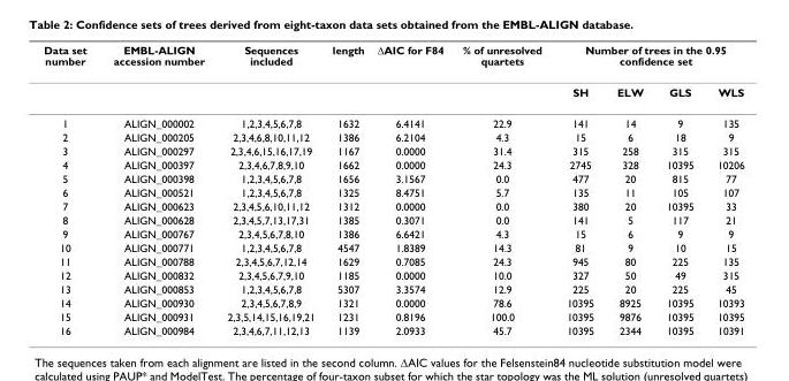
<table><thead><tr><td rowspan="2">Data set number</td><td rowspan="2">EMBL-ALIGN accession number</td><td rowspan="2">Sequences included</td><td rowspan="2">length</td><td rowspan="2">∆AIC for F84</td><td rowspan="2">% of unresolved quartets</td><td colspan="4">Number of trees in the 0.95 confidence set</td></tr><tr><td>SH</td><td>ELW</td><td>GLS</td><td>WLS</td></tr></thead><tbody><tr><td>1</td><td>ALIGN_000002</td><td>1,2,3,4,5,6,7,8</td><td>1632</td><td>6.4141</td><td>22.9</td><td>141</td><td>14</td><td>9</td><td>135</td></tr><tr><td>2</td><td>ALIGN_000205</td><td>2,3,4,6,8,10,11,12</td><td>1386</td><td>6.2104</td><td>4.3</td><td>15</td><td>6</td><td>18</td><td>9</td></tr><tr><td>3</td><td>ALIGN_000297</td><td>2,3,4,6,15,16,17,19</td><td>1167</td><td>0.0000</td><td>31.4</td><td>315</td><td>258</td><td>315</td><td>315</td></tr><tr><td>4</td><td>ALIGN_000397</td><td>2,3,4,6,7,8,9,10</td><td>1662</td><td>0.0000</td><td>24.3</td><td>2745</td><td>328</td><td>10395</td><td>10206</td></tr><tr><td>5</td><td>ALIGN_000398</td><td>1,2,3,4,5,6,7,8</td><td>1656</td><td>3.1567</td><td>0.0</td><td>477</td><td>20</td><td>815</td><td>77</td></tr><tr><td>6</td><td>ALIGN_000521</td><td>1,2,3,4,5,6,7,8</td><td>1325</td><td>8.4751</td><td>5.7</td><td>135</td><td>11</td><td>105</td><td>107</td></tr><tr><td>7</td><td>ALIGN_000623</td><td>2,3,4,5,6,10,11,12</td><td>1312</td><td>0.0000</td><td>0.0</td><td>380</td><td>20</td><td>10395</td><td>33</td></tr><tr><td>8</td><td>ALIGN_000628</td><td>2,3,4,5,7,13,17,31</td><td>1385</td><td>0.3071</td><td>0.0</td><td>141</td><td>5</td><td>117</td><td>21</td></tr><tr><td>9</td><td>ALIGN_000767</td><td>2,3,4,5,6,7,8,10</td><td>1386</td><td>6.6421</td><td>4.3</td><td>15</td><td>6</td><td>9</td><td>9</td></tr><tr><td>10</td><td>ALIGN_000771</td><td>1,2,3,4,5,6,7,8</td><td>4547</td><td>1.8389</td><td>14.3</td><td>81</td><td>9</td><td>10</td><td>15</td></tr><tr><td>11</td><td>ALIGN_000788</td><td>2,3,4,5,6,7,12,14</td><td>1629</td><td>0.7085</td><td>24.3</td><td>945</td><td>80</td><td>225</td><td>135</td></tr><tr><td>12</td><td>ALIGN_000832</td><td>2,3,4,5,6,7,9,10</td><td>1185</td><td>0.0000</td><td>10.0</td><td>327</td><td>50</td><td>49</td><td>315</td></tr><tr><td>13</td><td>ALIGN_000853</td><td>1,2,3,4,5,6,7,8</td><td>5307</td><td>3.3574</td><td>12.9</td><td>225</td><td>20</td><td>225</td><td>45</td></tr><tr><td>14</td><td>ALIGN_000930</td><td>2,3,4,5,6,7,8,9</td><td>1321</td><td>0.0000</td><td>78.6</td><td>10395</td><td>8925</td><td>10395</td><td>10393</td></tr><tr><td>15</td><td>ALIGN_000931</td><td>2,3,5,14,15,16,19,21</td><td>1231</td><td>0.8196</td><td>100.0</td><td>10395</td><td>9876</td><td>10395</td><td>10395</td></tr><tr><td>16</td><td>ALIGN_000984</td><td>2,3,4,6,7,11,12,13</td><td>1139</td><td>2.0933</td><td>45.7</td><td>10395</td><td>2344</td><td>10395</td><td>10391</td></tr></tbody></table>